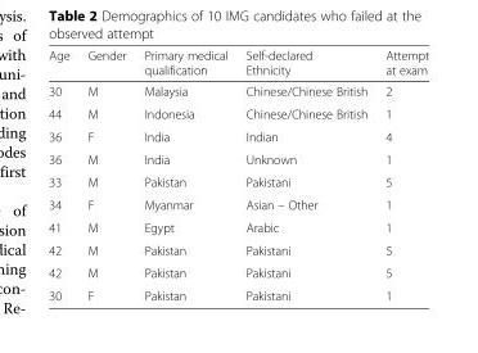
<table><thead><tr><td>Age</td><td>Gender</td><td>Primary medical qualification</td><td>Self-declared Ethnicity</td><td>Attempt at exam</td></tr></thead><tbody><tr><td>30</td><td>M</td><td>Malaysia</td><td>Chinese/Chinese British</td><td>2</td></tr><tr><td>44</td><td>M</td><td>Indonesia</td><td>Chinese/Chinese British</td><td>1</td></tr><tr><td>36</td><td>F</td><td>India</td><td>Indian</td><td>4</td></tr><tr><td>36</td><td>M</td><td>India</td><td>Unknown</td><td>1</td></tr><tr><td>33</td><td>M</td><td>Pakistan</td><td>Pakistani</td><td>5</td></tr><tr><td>34</td><td>F</td><td>Myanmar</td><td>Asian – Other</td><td>1</td></tr><tr><td>41</td><td>M</td><td>Egypt</td><td>Arabic</td><td>1</td></tr><tr><td>42</td><td>M</td><td>Pakistan</td><td>Pakistani</td><td>5</td></tr><tr><td>42</td><td>M</td><td>Pakistan</td><td>Pakistani</td><td>5</td></tr><tr><td>30</td><td>F</td><td>Pakistan</td><td>Pakistani</td><td>1</td></tr></tbody></table>